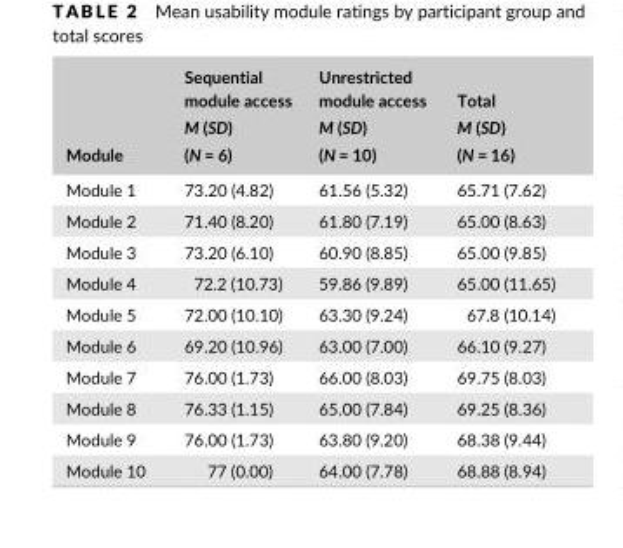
<table><thead><tr><td rowspan="3">Module</td><td rowspan="3">Sequential module access M (SD) (N = 6)</td><td rowspan="3">Unrestricted module access M (SD) (N = 10)</td><td rowspan="3">Total M (SD) (N = 16)</td></tr><tr></tr><tr></tr></thead><tbody><tr><td>Module 1</td><td>73.20 (4.82)</td><td>61.56 (5.32)</td><td>65.71 (7.62)</td></tr><tr><td>Module 2</td><td>71.40 (8.20)</td><td>61.80 (7.19)</td><td>65.00 (8.63)</td></tr><tr><td>Module 3</td><td>73.20 (6.10)</td><td>60.90 (8.85)</td><td>65.00 (9.85)</td></tr><tr><td>Module 4</td><td>72.2 (10.73)</td><td>59.86 (9.89)</td><td>65.00 (11.65)</td></tr><tr><td>Module 5</td><td>72.00 (10.10)</td><td>63.30 (9.24)</td><td>67.8 (10.14)</td></tr><tr><td>Module 6</td><td>69.20 (10.96)</td><td>63.00 (7.00)</td><td>66.10 (9.27)</td></tr><tr><td>Module 7</td><td>76.00 (1.73)</td><td>66.00 (8.03)</td><td>69.75 (8.03)</td></tr><tr><td>Module 8</td><td>76.33 (1.15)</td><td>65.00 (7.84)</td><td>69.25 (8.36)</td></tr><tr><td>Module 9</td><td>76.00 (1.73)</td><td>63.80 (9.20)</td><td>68.38 (9.44)</td></tr><tr><td>Module 10</td><td>77 (0.00)</td><td>64.00 (7.78)</td><td>68.88 (8.94)</td></tr></tbody></table>